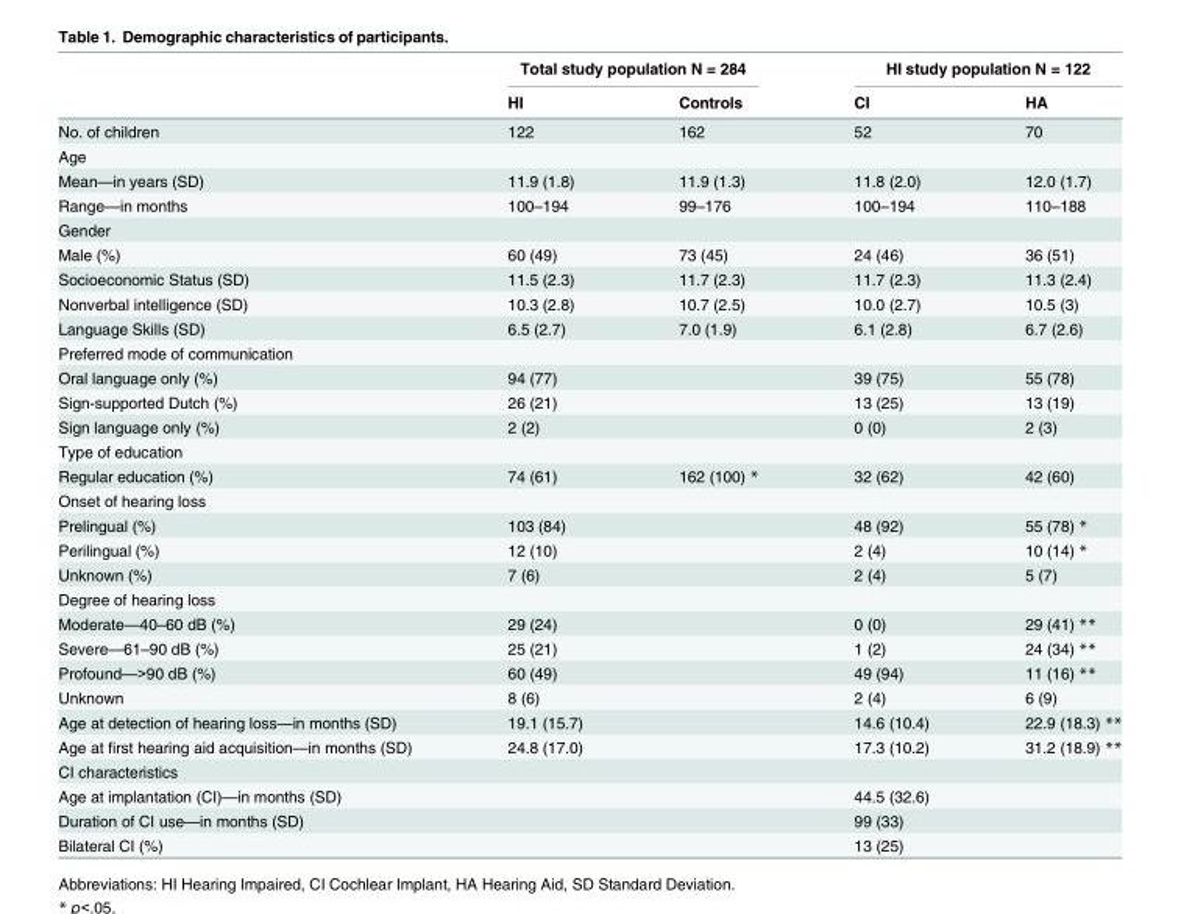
<table><thead><tr><td rowspan="2"></td><td colspan="2">Total study population N = 284</td><td colspan="2">HI study population N = 122</td></tr><tr><td>HI</td><td>Controls</td><td>CI</td><td>HA</td></tr></thead><tbody><tr><td>No. of children</td><td>122</td><td>162</td><td>52</td><td>70</td></tr><tr><td colspan="5">Age</td></tr><tr><td>Mean—in years (SD)</td><td>11.9 (1.8)</td><td>11.9 (1.3)</td><td>11.8 (2.0)</td><td>12.0 (1.7)</td></tr><tr><td>Range—in months</td><td>100–194</td><td>99–176</td><td>100–194</td><td>110–188</td></tr><tr><td colspan="5">Gender</td></tr><tr><td>Male (%)</td><td>60 (49)</td><td>73 (45)</td><td>24 (46)</td><td>36 (51)</td></tr><tr><td>Socioeconomic Status (SD)</td><td>11.5 (2.3)</td><td>11.7 (2.3)</td><td>11.7 (2.3)</td><td>11.3 (2.4)</td></tr><tr><td>Nonverbal intelligence (SD)</td><td>10.3 (2.8)</td><td>10.7 (2.5)</td><td>10.0 (2.7)</td><td>10.5 (3)</td></tr><tr><td>Language Skills (SD)</td><td>6.5 (2.7)</td><td>7.0 (1.9)</td><td>6.1 (2.8)</td><td>6.7 (2.6)</td></tr><tr><td colspan="5">Preferred mode of communication</td></tr><tr><td>Oral language only (%)</td><td>94 (77)</td><td></td><td>39 (75)</td><td>55 (78)</td></tr><tr><td>Sign-supported Dutch (%)</td><td>26 (21)</td><td></td><td>13 (25)</td><td>13 (19)</td></tr><tr><td>Sign language only (%)</td><td>2 (2)</td><td></td><td>0 (0)</td><td>2 (3)</td></tr><tr><td colspan="5">Type of education</td></tr><tr><td>Regular education (%)</td><td>74 (61)</td><td>162 (100) *</td><td>32 (62)</td><td>42 (60)</td></tr><tr><td colspan="5">Onset of hearing loss</td></tr><tr><td>Prelingual (%)</td><td>103 (84)</td><td></td><td>48 (92)</td><td>55 (78) *</td></tr><tr><td>Perilingual (%)</td><td>12 (10)</td><td></td><td>2 (4)</td><td>10 (14) *</td></tr><tr><td>Unknown (%)</td><td>7 (6)</td><td></td><td>2 (4)</td><td>5 (7)</td></tr><tr><td colspan="5">Degree of hearing loss</td></tr><tr><td>Moderate—40–60 dB (%)</td><td>29 (24)</td><td></td><td>0 (0)</td><td>29 (41) **</td></tr><tr><td>Severe—61–90 dB (%)</td><td>25 (21)</td><td></td><td>1 (2)</td><td>24 (34) **</td></tr><tr><td>Profound—&gt;90 dB (%)</td><td>60 (49)</td><td></td><td>49 (94)</td><td>11 (16) **</td></tr><tr><td>Unknown</td><td>8 (6)</td><td></td><td>2 (4)</td><td>6 (9)</td></tr><tr><td>Age at detection of hearing loss—in months (SD)</td><td>19.1 (15.7)</td><td></td><td>14.6 (10.4)</td><td>22.9 (18.3) **</td></tr><tr><td>Age at first hearing aid acquisition—in months (SD)</td><td>24.8 (17.0)</td><td></td><td>17.3 (10.2)</td><td>31.2 (18.9) **</td></tr><tr><td colspan="5">CI characteristics</td></tr><tr><td>Age at implantation (CI)—in months (SD)</td><td></td><td></td><td>44.5 (32.6)</td><td></td></tr><tr><td>Duration of CI use—in months (SD)</td><td></td><td></td><td>99 (33)</td><td></td></tr><tr><td>Bilateral CI (%)</td><td></td><td></td><td>13 (25)</td><td></td></tr></tbody></table>